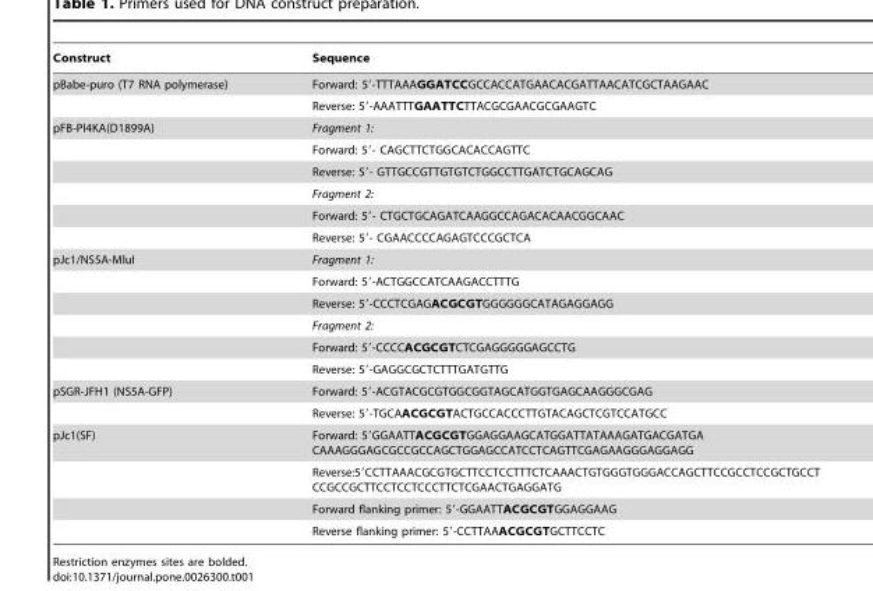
<table><thead><tr><td>Construct</td><td>Sequence</td></tr></thead><tbody><tr><td rowspan="2">pBabe-puro (T7 RNA polymerase)</td><td>Forward: 5′-TTTAAAGGATCCGCCACCATGAACACGATTAACATCGCTAAGAAC</td></tr><tr><td>Reverse: 5′-AAATTTGAATTCTTACGCGAACGCGAAGTC</td></tr><tr><td rowspan="6">pFB-PI4KA(D1899A)</td><td>Fragment 1:</td></tr><tr><td>Forward: 5′- CAGCTTCTGGCACACCAGTTC</td></tr><tr><td>Reverse: 5′- GTTGCCGTTGTGTCTGGCCTTGATCTGCAGCAG</td></tr><tr><td>Fragment 2:</td></tr><tr><td>Forward: 5′- CTGCTGCAGATCAAGGCCAGACACAACGGCAAC</td></tr><tr><td>Reverse: 5′- CGAACCCCAGAGTCCCGCTCA</td></tr><tr><td rowspan="6">pJc1/NS5A-MluI</td><td>Fragment 1:</td></tr><tr><td>Forward: 5′-ACTGGCCATCAAGACCTTTG</td></tr><tr><td>Reverse: 5′-CCCTCGAGACGCGTGGGGGGCATAGAGGAGG</td></tr><tr><td>Fragment 2:</td></tr><tr><td>Forward: 5′-CCCCACGCGTCTCGAGGGGGAGCCTG</td></tr><tr><td>Reverse: 5′-GAGGCGCTCTTTGATGTTG</td></tr><tr><td rowspan="2">pSGR-JFH1 (NS5A-GFP)</td><td>Forward: 5′-ACGTACGCGTGGCGGTAGCATGGTGAGCAAGGGCGAG</td></tr><tr><td>Reverse: 5′-TGCAACGCGTACTGCCACCCTTGTACAGCTCGTCCATGCC</td></tr><tr><td rowspan="4">pJc1(SF)</td><td>Forward: 5′GGAATTACGCGTGGAGGAAGCATGGATTATAAAGATGACGATGA CAAAGGGAGCGCCGCCAGCTGGAGCCATCCTCAGTTCGAGAAGGGAGGAGG</td></tr><tr><td>Reverse:5′CCTTAAACGCGTGCTTCCTCCTTTCTCAAACTGTGGGTGGGACCAGCTTCCGCCTCCGCTGCCT CCGCCGCTTCCTCCTCCCTTCTCGAACTGAGGATG</td></tr><tr><td>Forward flanking primer: 5′-GGAATTACGCGTGGAGGAAG</td></tr><tr><td>Reverse flanking primer: 5′-CCTTAAACGCGTGCTTCCTC</td></tr></tbody></table>